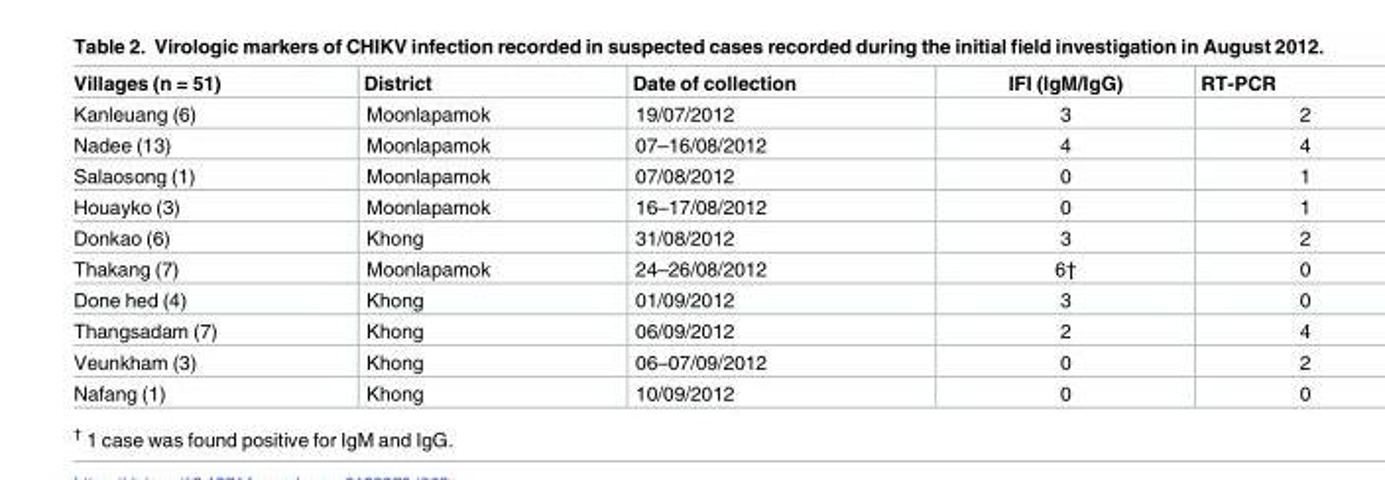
<table><thead><tr><td>Villages (n = 51)</td><td>District</td><td>Date of collection</td><td>IFI (IgM/IgG)</td><td>RT-PCR</td></tr></thead><tbody><tr><td>Kanleuang (6)</td><td>Moonlapamok</td><td>19/07/2012</td><td>3</td><td>2</td></tr><tr><td>Nadee (13)</td><td>Moonlapamok</td><td>07–16/08/2012</td><td>4</td><td>4</td></tr><tr><td>Salaosong (1)</td><td>Moonlapamok</td><td>07/08/2012</td><td>0</td><td>1</td></tr><tr><td>Houayko (3)</td><td>Moonlapamok</td><td>16–17/08/2012</td><td>0</td><td>1</td></tr><tr><td>Donkao (6)</td><td>Khong</td><td>31/08/2012</td><td>3</td><td>2</td></tr><tr><td>Thakang (7)</td><td>Moonlapamok</td><td>24–26/08/2012</td><td>6†</td><td>0</td></tr><tr><td>Done hed (4)</td><td>Khong</td><td>01/09/2012</td><td>3</td><td>0</td></tr><tr><td>Thangsadam (7)</td><td>Khong</td><td>06/09/2012</td><td>2</td><td>4</td></tr><tr><td>Veunkham (3)</td><td>Khong</td><td>06–07/09/2012</td><td>0</td><td>2</td></tr><tr><td>Nafang (1)</td><td>Khong</td><td>10/09/2012</td><td>0</td><td>0</td></tr></tbody></table>